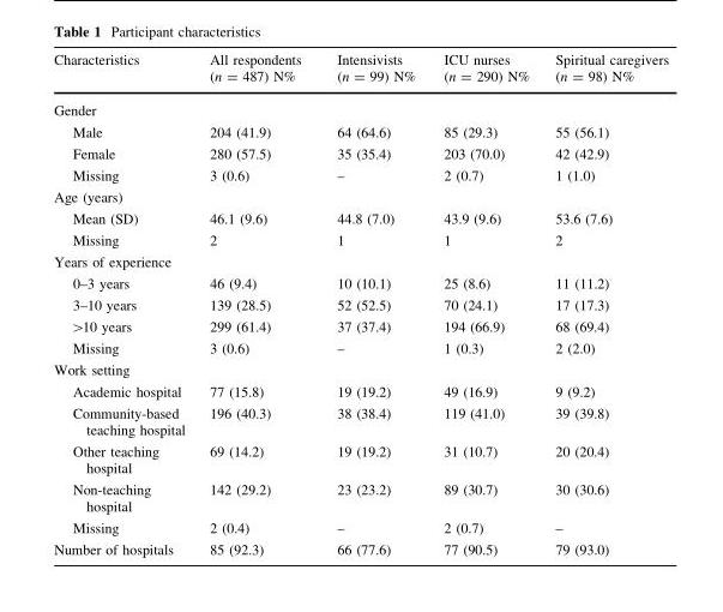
<table><thead><tr><td>Characteristics</td><td>All respondents (n = 487) N%</td><td>Intensivists (n = 99) N%</td><td>ICU nurses (n = 290) N%</td><td>Spiritual caregivers (n = 98) N%</td></tr></thead><tbody><tr><td colspan="5">Gender</td></tr><tr><td>Male</td><td>204 (41.9)</td><td>64 (64.6)</td><td>85 (29.3)</td><td>55 (56.1)</td></tr><tr><td>Female</td><td>280 (57.5)</td><td>35 (35.4)</td><td>203 (70.0)</td><td>42 (42.9)</td></tr><tr><td>Missing</td><td>3 (0.6)</td><td>–</td><td>2 (0.7)</td><td>1 (1.0)</td></tr><tr><td colspan="5">Age (years)</td></tr><tr><td>Mean (SD)</td><td>46.1 (9.6)</td><td>44.8 (7.0)</td><td>43.9 (9.6)</td><td>53.6 (7.6)</td></tr><tr><td>Missing</td><td>2</td><td>1</td><td>1</td><td>2</td></tr><tr><td colspan="5">Years of experience</td></tr><tr><td>0–3 years</td><td>46 (9.4)</td><td>10 (10.1)</td><td>25 (8.6)</td><td>11 (11.2)</td></tr><tr><td>3–10 years</td><td>139 (28.5)</td><td>52 (52.5)</td><td>70 (24.1)</td><td>17 (17.3)</td></tr><tr><td>&gt;10 years</td><td>299 (61.4)</td><td>37 (37.4)</td><td>194 (66.9)</td><td>68 (69.4)</td></tr><tr><td>Missing</td><td>3 (0.6)</td><td>–</td><td>1 (0.3)</td><td>2 (2.0)</td></tr><tr><td colspan="5">Work setting</td></tr><tr><td>Academic hospital</td><td>77 (15.8)</td><td>19 (19.2)</td><td>49 (16.9)</td><td>9 (9.2)</td></tr><tr><td>Community-based teaching hospital</td><td>196 (40.3)</td><td>38 (38.4)</td><td>119 (41.0)</td><td>39 (39.8)</td></tr><tr><td>Other teaching hospital</td><td>69 (14.2)</td><td>19 (19.2)</td><td>31 (10.7)</td><td>20 (20.4)</td></tr><tr><td>Non-teaching hospital</td><td>142 (29.2)</td><td>23 (23.2)</td><td>89 (30.7)</td><td>30 (30.6)</td></tr><tr><td>Missing</td><td>2 (0.4)</td><td>–</td><td>2 (0.7)</td><td>–</td></tr><tr><td>Number of hospitals</td><td>85 (92.3)</td><td>66 (77.6)</td><td>77 (90.5)</td><td>79 (93.0)</td></tr></tbody></table>